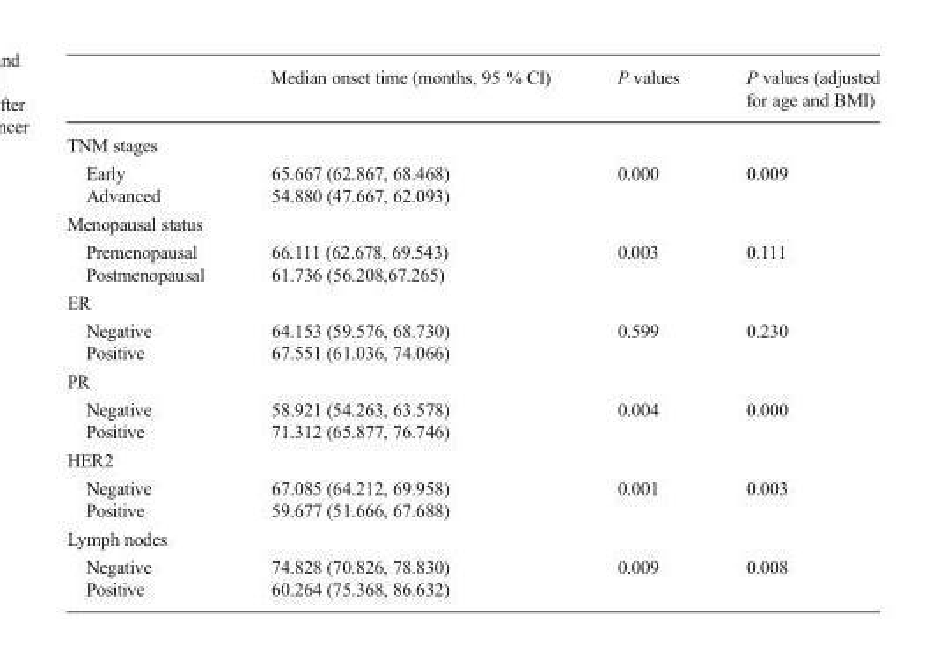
<table><thead><tr><td></td><td>Median onset time (months, 95 % CI)</td><td>P values</td><td>P values (adjusted for age and BMI)</td></tr></thead><tbody><tr><td colspan="4">TNM stages</td></tr><tr><td>Early</td><td>65.667 (62.867, 68.468)</td><td rowspan="2">0.000</td><td rowspan="2">0.009</td></tr><tr><td>Advanced</td><td>54.880 (47.667, 62.093)</td></tr><tr><td colspan="4">Menopausal status</td></tr><tr><td>Premenopausal</td><td>66.111 (62.678, 69.543)</td><td rowspan="2">0.003</td><td rowspan="2">0.111</td></tr><tr><td>Postmenopausal</td><td>61.736 (56.208,67.265)</td></tr><tr><td colspan="4">ER</td></tr><tr><td>Negative</td><td>64.153 (59.576, 68.730)</td><td rowspan="2">0.599</td><td rowspan="2">0.230</td></tr><tr><td>Positive</td><td>67.551 (61.036, 74.066)</td></tr><tr><td colspan="4">PR</td></tr><tr><td>Negative</td><td>58.921 (54.263, 63.578)</td><td rowspan="2">0.004</td><td rowspan="2">0.000</td></tr><tr><td>Positive</td><td>71.312 (65.877, 76.746)</td></tr><tr><td colspan="4">HER2</td></tr><tr><td>Negative</td><td>67.085 (64.212, 69.958)</td><td rowspan="2">0.001</td><td rowspan="2">0.003</td></tr><tr><td>Positive</td><td>59.677 (51.666, 67.688)</td></tr><tr><td colspan="4">Lymph nodes</td></tr><tr><td>Negative</td><td>74.828 (70.826, 78.830)</td><td rowspan="2">0.009</td><td rowspan="2">0.008</td></tr><tr><td>Positive</td><td>60.264 (75.368, 86.632)</td></tr></tbody></table>